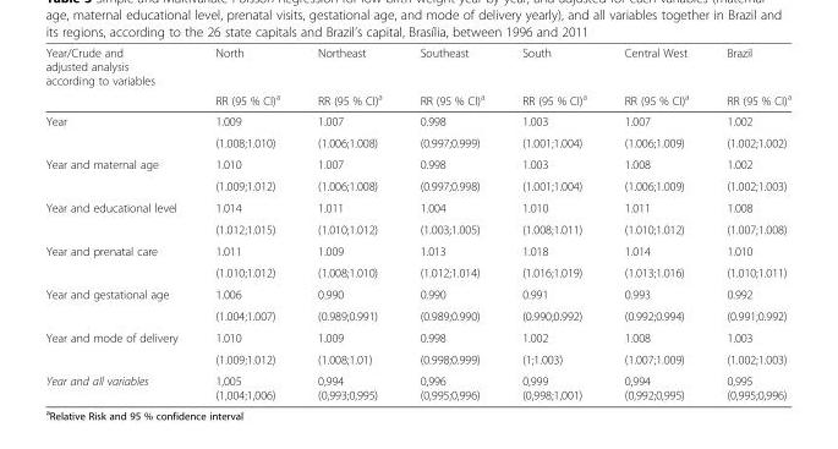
<table><thead><tr><td rowspan="2">Year/Crude and adjusted analysis according to variables</td><td rowspan="2">North RR (95 % CI)<sup>a</sup></td><td rowspan="2">Northeast RR (95 % CI)<sup>a</sup></td><td rowspan="2">Southeast RR (95 % CI)<sup>a</sup></td><td rowspan="2">South RR (95 % CI)<sup>a</sup></td><td rowspan="2">Central West RR (95 % CI)<sup>a</sup></td><td rowspan="2">Brazil RR (95 % CI)<sup>a</sup></td></tr><tr></tr></thead><tbody><tr><td rowspan="2">Year</td><td>1.009</td><td>1.007</td><td>0.998</td><td>1.003</td><td>1.007</td><td>1.002</td></tr><tr><td>(1.008;1.010)</td><td>(1.006;1.008)</td><td>(0.997;0.999)</td><td>(1.001;1.004)</td><td>(1.006;1.009)</td><td>(1.002;1.002)</td></tr><tr><td rowspan="2">Year and maternal age</td><td>1.010</td><td>1.007</td><td>0.998</td><td>1.003</td><td>1.008</td><td>1.002</td></tr><tr><td>(1.009;1.012)</td><td>(1.006;1.008)</td><td>(0.997;0.998)</td><td>(1.001;1.004)</td><td>(1.006;1.009)</td><td>(1.002;1.003)</td></tr><tr><td rowspan="2">Year and educational level</td><td>1.014</td><td>1.011</td><td>1.004</td><td>1.010</td><td>1.011</td><td>1.008</td></tr><tr><td>(1.012;1.015)</td><td>(1.010;1.012)</td><td>(1.003;1.005)</td><td>(1.008;1.011)</td><td>(1.010;1.012)</td><td>(1.007;1.008)</td></tr><tr><td rowspan="2">Year and prenatal care</td><td>1.011</td><td>1.009</td><td>1.013</td><td>1.018</td><td>1.014</td><td>1.010</td></tr><tr><td>(1.010;1.012)</td><td>(1.008;1.010)</td><td>(1.012;1.014)</td><td>(1.016;1.019)</td><td>(1.013;1.016)</td><td>(1.010;1.011)</td></tr><tr><td rowspan="2">Year and gestational age</td><td>1.006</td><td>0.990</td><td>0.990</td><td>0.991</td><td>0.993</td><td>0.992</td></tr><tr><td>(1.004;1.007)</td><td>(0.989;0.991)</td><td>(0.989;0.990)</td><td>(0.990;0.992)</td><td>(0.992;0.994)</td><td>(0.991;0.992)</td></tr><tr><td rowspan="2">Year and mode of delivery</td><td>1.010</td><td>1.009</td><td>0.998</td><td>1.002</td><td>1.008</td><td>1.003</td></tr><tr><td>(1.009;1.012)</td><td>(1.008;1.01)</td><td>(0.998;0.999)</td><td>(1;1.003)</td><td>(1.007;1.009)</td><td>(1.002;1.003)</td></tr><tr><td>Year and all variables</td><td>1,005 (1,004;1,006)</td><td>0,994 (0,993;0,995)</td><td>0,996 (0,995;0,996)</td><td>0,999 (0,998;1,001)</td><td>0,994 (0,992;0,995)</td><td>0,995 (0,995;0,996)</td></tr></tbody></table>